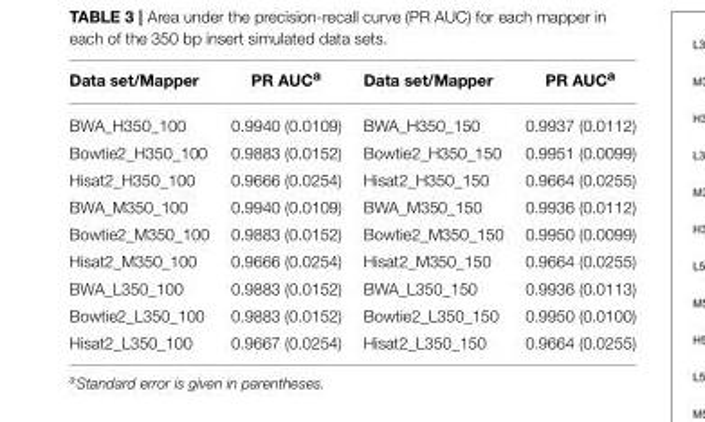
<table><thead><tr><td>Data set/Mapper</td><td>PR AUC<sup>a</sup></td><td>Data set/Mapper</td><td>PR AUC<sup>a</sup></td></tr></thead><tbody><tr><td>BWA_H350_100</td><td>0.9940 (0.0109)</td><td>BWA_H350_150</td><td>0.9937 (0.0112)</td></tr><tr><td>Bowtie2_H350_100</td><td>0.9883 (0.0152)</td><td>Bowtie2_H350_150</td><td>0.9951 (0.0099)</td></tr><tr><td>Hisat2_H350_100</td><td>0.9666 (0.0254)</td><td>Hisat2_H350_150</td><td>0.9664 (0.0255)</td></tr><tr><td>BWA_M350_100</td><td>0.9940 (0.0109)</td><td>BWA_M350_150</td><td>0.9936 (0.0112)</td></tr><tr><td>Bowtie2_M350_100</td><td>0.9883 (0.0152)</td><td>Bowtie2_M350_150</td><td>0.9950 (0.0099)</td></tr><tr><td>Hisat2_M350_100</td><td>0.9666 (0.0254)</td><td>Hisat2_M350_150</td><td>0.9664 (0.0255)</td></tr><tr><td>BWA_L350_100</td><td>0.9883 (0.0152)</td><td>BWA_L350_150</td><td>0.9936 (0.0113)</td></tr><tr><td>Bowtie2_L350_100</td><td>0.9883 (0.0152)</td><td>Bowtie2_L350_150</td><td>0.9950 (0.0100)</td></tr><tr><td>Hisat2_L350_100</td><td>0.9667 (0.0254)</td><td>Hisat2_L350_150</td><td>0.9664 (0.0255)</td></tr></tbody></table>